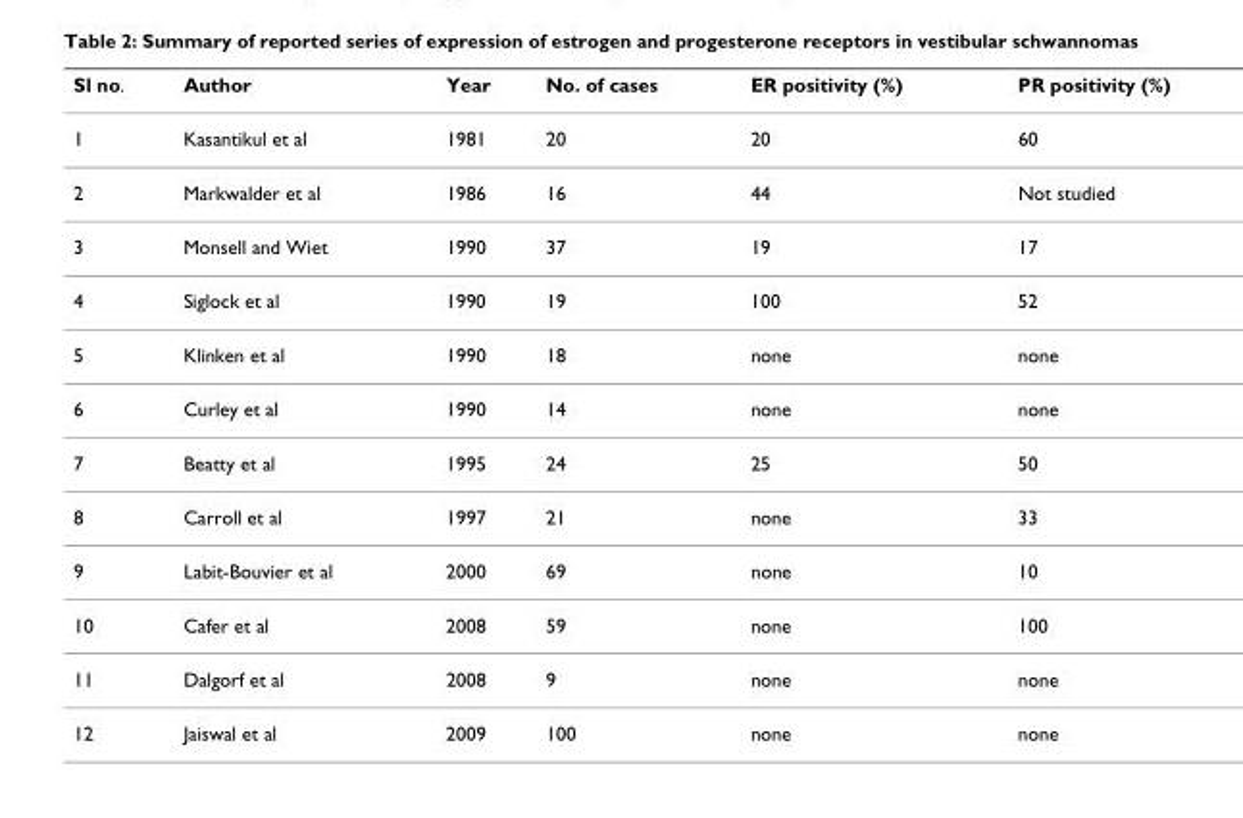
<table><thead><tr><td>Sl no.</td><td>Author</td><td>Year</td><td>No. of cases</td><td>ER positivity (%)</td><td>PR positivity (%)</td></tr></thead><tbody><tr><td>1</td><td>Kasantikul et al</td><td>1981</td><td>20</td><td>20</td><td>60</td></tr><tr><td>2</td><td>Markwalder et al</td><td>1986</td><td>16</td><td>44</td><td>Not studied</td></tr><tr><td>3</td><td>Monsell and Wiet</td><td>1990</td><td>37</td><td>19</td><td>17</td></tr><tr><td>4</td><td>Siglock et al</td><td>1990</td><td>19</td><td>100</td><td>52</td></tr><tr><td>5</td><td>Klinken et al</td><td>1990</td><td>18</td><td>none</td><td>none</td></tr><tr><td>6</td><td>Curley et al</td><td>1990</td><td>14</td><td>none</td><td>none</td></tr><tr><td>7</td><td>Beatty et al</td><td>1995</td><td>24</td><td>25</td><td>50</td></tr><tr><td>8</td><td>Carroll et al</td><td>1997</td><td>21</td><td>none</td><td>33</td></tr><tr><td>9</td><td>Labit-Bouvier et al</td><td>2000</td><td>69</td><td>none</td><td>10</td></tr><tr><td>10</td><td>Cafer et al</td><td>2008</td><td>59</td><td>none</td><td>100</td></tr><tr><td>11</td><td>Dalgorf et al</td><td>2008</td><td>9</td><td>none</td><td>none</td></tr><tr><td>12</td><td>Jaiswal et al</td><td>2009</td><td>100</td><td>none</td><td>none</td></tr></tbody></table>